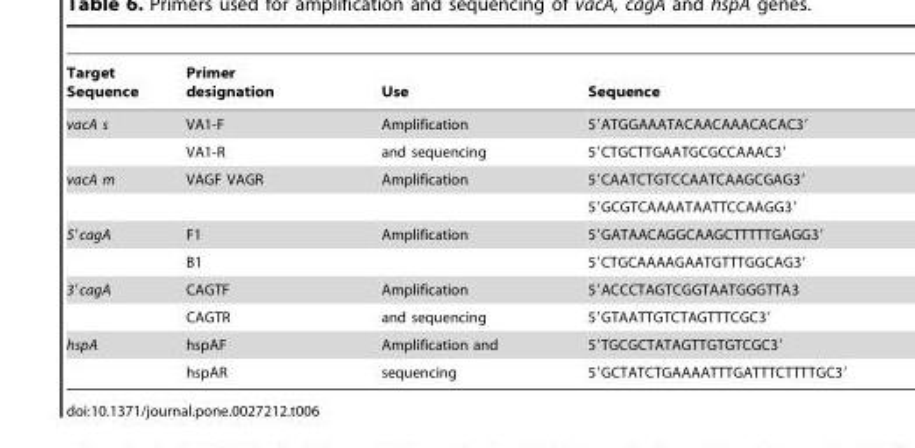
<table><thead><tr><td>Target Sequence</td><td>Primer designation</td><td>Use</td><td>Sequence</td></tr></thead><tbody><tr><td rowspan="2">vacA s</td><td>VA1-F</td><td>Amplification</td><td>5′ATGGAAATACAACAAACACAC3′</td></tr><tr><td>VA1-R</td><td>and sequencing</td><td>5′CTGCTTGAATGCGCCAAAC3′</td></tr><tr><td rowspan="2">vacA m</td><td>VAGF VAGR</td><td>Amplification</td><td>5′CAATCTGTCCAATCAAGCGAG3′</td></tr><tr><td></td><td></td><td>5′GCGTCAAAATAATTCCAAGG3′</td></tr><tr><td rowspan="2">5′cagA</td><td>F1</td><td>Amplification</td><td>5′GATAACAGGCAAGCTTTTTGAGG3′</td></tr><tr><td>B1</td><td></td><td>5′CTGCAAAAGAATGTTTGGCAG3′</td></tr><tr><td rowspan="2">3′cagA</td><td>CAGTF</td><td>Amplification</td><td>5′ACCCTAGTCGGTAATGGGTTA3</td></tr><tr><td>CAGTR</td><td>and sequencing</td><td>59GTAATTGTCTAGTTTCGC39</td></tr><tr><td rowspan="2">hspA</td><td>hspAF</td><td>Amplification and</td><td>5′TGCGCTATAGTTGTGTCGC3′</td></tr><tr><td>hspAR</td><td>sequencing</td><td>5′GCTATCTGAAAATTTGATTTCTTTTGC3′</td></tr></tbody></table>